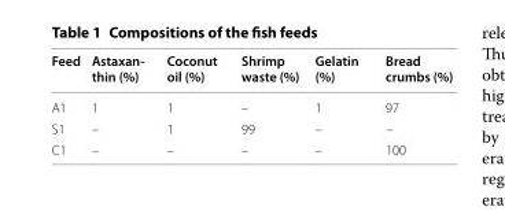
<table><thead><tr><td>Feed</td><td>Astaxan- thin (%)</td><td>Coconut oil (%)</td><td>Shrimp waste (%)</td><td>Gelatin (%)</td><td>Bread crumbs (%)</td></tr></thead><tbody><tr><td>A1</td><td>1</td><td>1</td><td>–</td><td>1</td><td>97</td></tr><tr><td>S1</td><td>–</td><td>1</td><td>99</td><td>–</td><td>–</td></tr><tr><td>C1</td><td>–</td><td>–</td><td>–</td><td>–</td><td>100</td></tr></tbody></table>